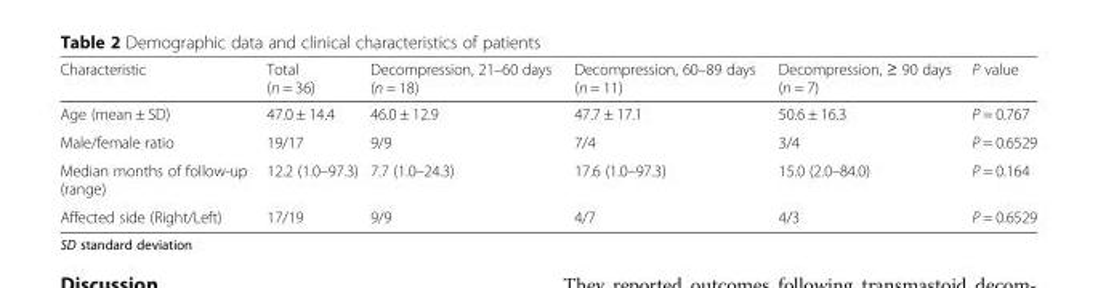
<table><thead><tr><td>Characteristic</td><td>Total (n = 36)</td><td>Decompression, 21–60 days (n = 18)</td><td>Decompression, 60–89 days (n = 11)</td><td>Decompression, ≥ 90 days (n = 7)</td><td>P value</td></tr></thead><tbody><tr><td>Age (mean ± SD)</td><td>47.0 ± 14.4</td><td>46.0 ± 12.9</td><td>47.7 ± 17.1</td><td>50.6 ± 16.3</td><td>P = 0.767</td></tr><tr><td>Male/female ratio</td><td>19/17</td><td>9/9</td><td>7/4</td><td>3/4</td><td>P = 0.6529</td></tr><tr><td>Median months of follow-up (range)</td><td>12.2 (1.0–97.3)</td><td>7.7 (1.0–24.3)</td><td>17.6 (1.0–97.3)</td><td>15.0 (2.0–84.0)</td><td>P = 0.164</td></tr><tr><td>Affected side (Right/Left)</td><td>17/19</td><td>9/9</td><td>4/7</td><td>4/3</td><td>P = 0.6529</td></tr></tbody></table>